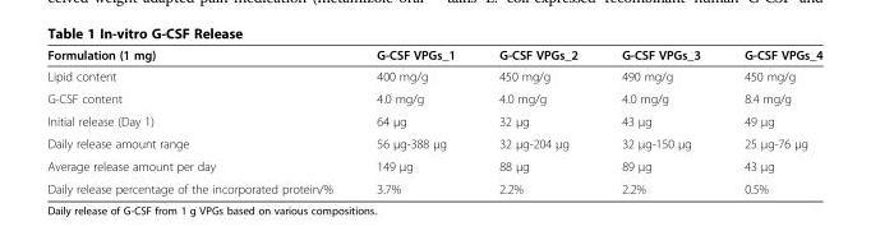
<table><thead><tr><td>Formulation (1 mg)</td><td>G-CSF VPGs_1</td><td>G-CSF VPGs_2</td><td>G-CSF VPGs_3</td><td>G-CSF VPGs_4</td></tr></thead><tbody><tr><td>Lipid content</td><td>400 mg/g</td><td>450 mg/g</td><td>490 mg/g</td><td>450 mg/g</td></tr><tr><td>G-CSF content</td><td>4.0 mg/g</td><td>4.0 mg/g</td><td>4.0 mg/g</td><td>8.4 mg/g</td></tr><tr><td>Initial release (Day 1)</td><td>64 μg</td><td>32 μg</td><td>43 μg</td><td>49 μg</td></tr><tr><td>Daily release amount range</td><td>56 μg-388 μg</td><td>32 μg-204 μg</td><td>32 μg-150 μg</td><td>25 μg-76 μg</td></tr><tr><td>Average release amount per day</td><td>149 μg</td><td>88 μg</td><td>89 μg</td><td>43 μg</td></tr><tr><td>Daily release percentage of the incorporated protein/%</td><td>3.7%</td><td>2.2%</td><td>2.2%</td><td>0.5%</td></tr></tbody></table>